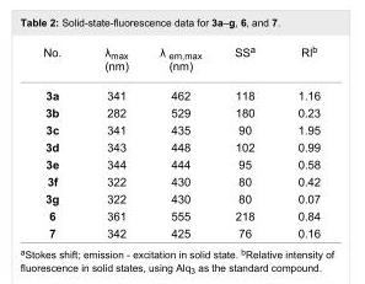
<table><tbody><tr><td>No.</td><td>λ<sub>max</sub> (nm)</td><td>λ <sub>em,max</sub> (nm)</td><td>SS<sup>a</sup></td><td>Rl<sup>b</sup></td></tr><tr><td>3a</td><td>341</td><td>462</td><td>118</td><td>1.16</td></tr><tr><td>3b</td><td>282</td><td>529</td><td>180</td><td>0.23</td></tr><tr><td>3c</td><td>341</td><td>435</td><td>90</td><td>1.95</td></tr><tr><td>3d</td><td>343</td><td>448</td><td>102</td><td>0.99</td></tr><tr><td>3e</td><td>344</td><td>444</td><td>95</td><td>0.58</td></tr><tr><td>3f</td><td>322</td><td>430</td><td>80</td><td>0.42</td></tr><tr><td>3g</td><td>322</td><td>430</td><td>80</td><td>0.07</td></tr><tr><td>6</td><td>361</td><td>555</td><td>218</td><td>0.84</td></tr><tr><td>7</td><td>342</td><td>425</td><td>76</td><td>0.16</td></tr></tbody></table>